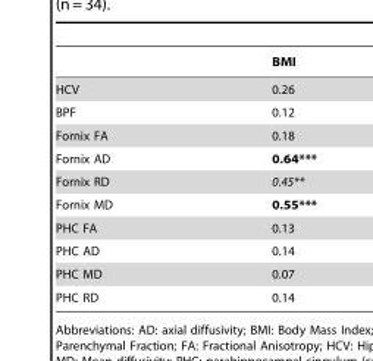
<table><thead><tr><td></td><td>BMI</td></tr></thead><tbody><tr><td>HCV</td><td>0.26</td></tr><tr><td>BPF</td><td>0.12</td></tr><tr><td>Fornix FA</td><td>0.18</td></tr><tr><td>Fornix AD</td><td>0.64***</td></tr><tr><td>Fornix RD</td><td>0.45**</td></tr><tr><td>Fornix MD</td><td>0.55***</td></tr><tr><td>PHC FA</td><td>0.13</td></tr><tr><td>PHC AD</td><td>0.14</td></tr><tr><td>PHC MD</td><td>0.07</td></tr><tr><td>PHC RD</td><td>0.14</td></tr></tbody></table>